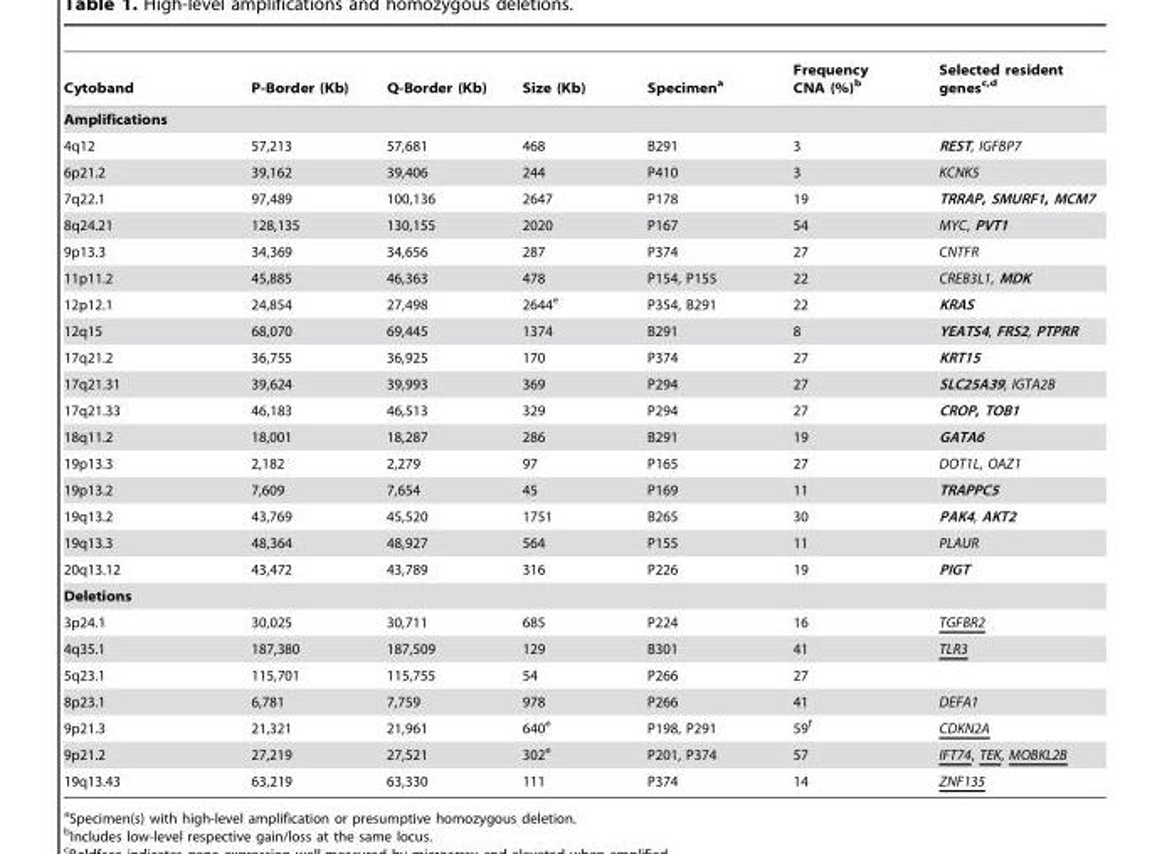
<table><thead><tr><td>Cytoband</td><td>P-Border (Kb)</td><td>Q-Border (Kb)</td><td>Size (Kb)</td><td>Specimen<sup>a</sup></td><td>Frequency CNA (%)<sup>b</sup></td><td>Selected resident genes<sup>c,</sup>d</td></tr></thead><tbody><tr><td colspan="7">Amplifications</td></tr><tr><td>4q12</td><td>57,213</td><td>57,681</td><td>468</td><td>B291</td><td>3</td><td>REST, IGFBP7</td></tr><tr><td>6p21.2</td><td>39,162</td><td>39,406</td><td>244</td><td>P410</td><td>3</td><td>KCNK5</td></tr><tr><td>7q22.1</td><td>97,489</td><td>100,136</td><td>2647</td><td>P178</td><td>19</td><td>TRRAP, SMURF1, MCM7</td></tr><tr><td>8q24.21</td><td>128,135</td><td>130,155</td><td>2020</td><td>P167</td><td>54</td><td>MYC, PVT1</td></tr><tr><td>9p13.3</td><td>34,369</td><td>34,656</td><td>287</td><td>P374</td><td>27</td><td>CNTFR</td></tr><tr><td>11p11.2</td><td>45,885</td><td>46,363</td><td>478</td><td>P154, P155</td><td>22</td><td>CREB3L1, MDK</td></tr><tr><td>12p12.1</td><td>24,854</td><td>27,498</td><td>2644<sup>e</sup></td><td>P354, B291</td><td>22</td><td>KRAS</td></tr><tr><td>12q15</td><td>68,070</td><td>69,445</td><td>1374</td><td>B291</td><td>8</td><td>YEATS4, FRS2, PTPRR</td></tr><tr><td>17q21.2</td><td>36,755</td><td>36,925</td><td>170</td><td>P374</td><td>27</td><td>KRT15</td></tr><tr><td>17q21.31</td><td>39,624</td><td>39,993</td><td>369</td><td>P294</td><td>27</td><td>SLC25A39, IGTA2B</td></tr><tr><td>17q21.33</td><td>46,183</td><td>46,513</td><td>329</td><td>P294</td><td>27</td><td>CROP, TOB1</td></tr><tr><td>18q11.2</td><td>18,001</td><td>18,287</td><td>286</td><td>B291</td><td>19</td><td>GATA6</td></tr><tr><td>19p13.3</td><td>2,182</td><td>2,279</td><td>97</td><td>P165</td><td>27</td><td>DOT1L, OAZ1</td></tr><tr><td>19p13.2</td><td>7,609</td><td>7,654</td><td>45</td><td>P169</td><td>11</td><td>TRAPPC5</td></tr><tr><td>19q13.2</td><td>43,769</td><td>45,520</td><td>1751</td><td>B265</td><td>30</td><td>PAK4, AKT2</td></tr><tr><td>19q13.3</td><td>48,364</td><td>48,927</td><td>564</td><td>P155</td><td>11</td><td>PLAUR</td></tr><tr><td>20q13.12</td><td>43,472</td><td>43,789</td><td>316</td><td>P226</td><td>19</td><td>PIGT</td></tr><tr><td colspan="7">Deletions</td></tr><tr><td>3p24.1</td><td>30,025</td><td>30,711</td><td>685</td><td>P224</td><td>16</td><td>TGFBR2</td></tr><tr><td>4q35.1</td><td>187,380</td><td>187,509</td><td>129</td><td>B301</td><td>41</td><td>TLR3</td></tr><tr><td>5q23.1</td><td>115,701</td><td>115,755</td><td>54</td><td>P266</td><td>27</td><td></td></tr><tr><td>8p23.1</td><td>6,781</td><td>7,759</td><td>978</td><td>P266</td><td>41</td><td>DEFA1</td></tr><tr><td>9p21.3</td><td>21,321</td><td>21,961</td><td>640<sup>e</sup></td><td>P198, P291</td><td>59<sup>f</sup></td><td>CDKN2A</td></tr><tr><td>9p21.2</td><td>27,219</td><td>27,521</td><td>302<sup>e</sup></td><td>P201, P374</td><td>57</td><td>IFT74, TEK, MOBKL2B</td></tr><tr><td>19q13.43</td><td>63,219</td><td>63,330</td><td>111</td><td>P374</td><td>14</td><td>ZNF135</td></tr></tbody></table>